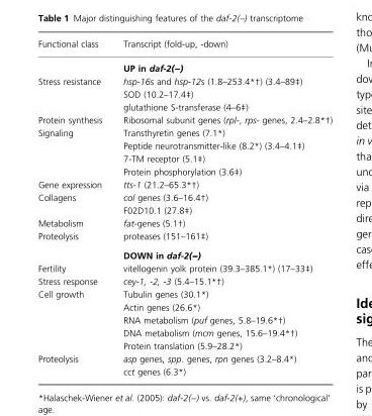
<table><thead><tr><td>Functional class</td><td>Transcript (fold-up, -down)</td></tr></thead><tbody><tr><td></td><td>UP in daf-2(−−−−)</td></tr><tr><td rowspan="3">Stress resistance</td><td>hsp-16s and hsp-12s (1.8–253.4*†) (3.4–89‡)</td></tr><tr><td>SOD (10.2–17.4‡)</td></tr><tr><td>glutathione S-transferase (4–6‡)</td></tr><tr><td>Protein synthesis</td><td>Ribosomal subunit genes (rpl-, rps- genes, 2.4–2.8*†)</td></tr><tr><td rowspan="4">Signaling</td><td>Transthyretin genes (7.1*)</td></tr><tr><td>Peptide neurotransmitter-like (8.2*) (3.4–4.1‡)</td></tr><tr><td>7-TM receptor (5.1‡)</td></tr><tr><td>Protein phosphorylation (3.6‡)</td></tr><tr><td>Gene expression</td><td>tts-1 (21.2–65.3*†)</td></tr><tr><td rowspan="2">Collagens</td><td>col genes (3.6–16.4†)</td></tr><tr><td>F02D10.1 (27.8‡)</td></tr><tr><td>Metabolism</td><td>fat-genes (5.1†)</td></tr><tr><td rowspan="2">Proteolysis</td><td>proteases (151–161‡)</td></tr><tr><td>DOWN in daf-2(−−−−)</td></tr><tr><td>Fertility</td><td>vitellogenin yolk protein (39.3–385.1*) (17–33‡)</td></tr><tr><td>Stress response</td><td>cey-1, -2, -3 (5.4–15.1*†)</td></tr><tr><td rowspan="5">Cell growth</td><td>Tubulin genes (30.1*)</td></tr><tr><td>Actin genes (26.6*)</td></tr><tr><td>RNA metabolism (puf genes, 5.8–19.6*†)</td></tr><tr><td>DNA metabolism (mcm genes, 15.6–19.4*†)</td></tr><tr><td>Protein translation (5.9–28.2*)</td></tr><tr><td>Proteolysis</td><td>asp genes, spp. genes, rpn genes (3.2–8.4*) cct genes (6.3*)</td></tr></tbody></table>